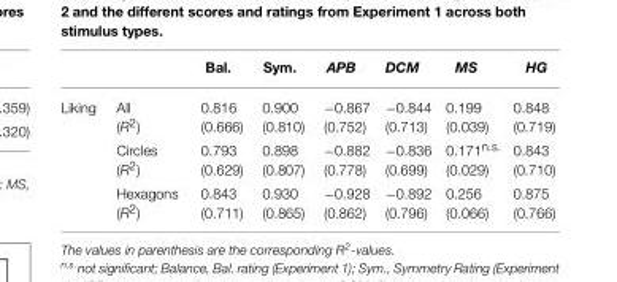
<table><thead><tr><td></td><td></td><td>Bal.</td><td>Sym.</td><td>APB</td><td>DCM</td><td>MS</td><td>HG</td></tr></thead><tbody><tr><td rowspan="3">Liking</td><td>All (R<sup>2</sup>)</td><td>0.816 (0.666)</td><td>0.900 (0.810)</td><td>−0.867 (0.752)</td><td>−0.844 (0.713)</td><td>0.199 (0.039)</td><td>0.848 (0.719)</td></tr><tr><td>Circles (R<sup>2</sup>)</td><td>0.793 (0.629)</td><td>0.898 (0.807)</td><td>−0.882 (0.778)</td><td>−0.836 (0.699)</td><td>0.171<sup>n.s.</sup> (0.029)</td><td>0.843 (0.710)</td></tr><tr><td>Hexagons (R<sup>2</sup>)</td><td>0.843 (0.711)</td><td>0.930 (0.865)</td><td>−0.928 (0.862)</td><td>−0.892 (0.796)</td><td>0.256 (0.066)</td><td>0.875 (0.766)</td></tr></tbody></table>